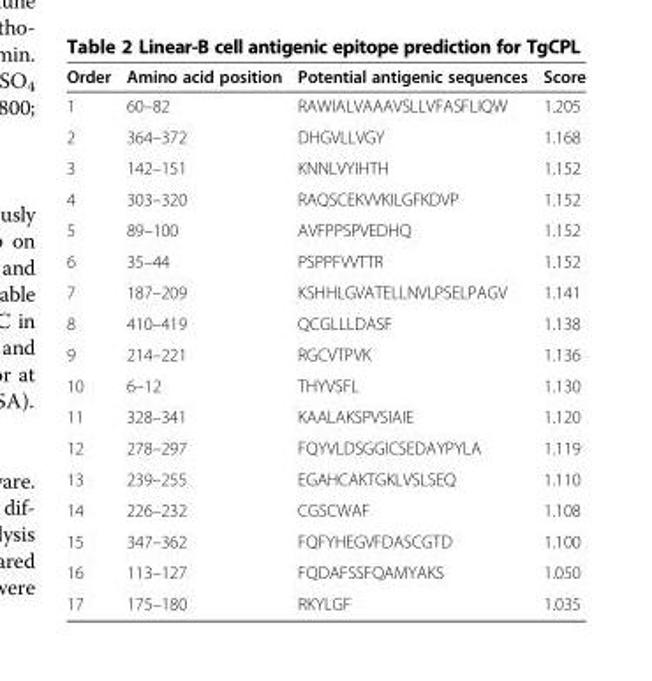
<table><thead><tr><td>Order</td><td>Amino acid position</td><td>Potential antigenic sequences</td><td>Score</td></tr></thead><tbody><tr><td>1</td><td>60–82</td><td>RAWIALVAAAVSLLVFASFLIQW</td><td>1.205</td></tr><tr><td>2</td><td>364–372</td><td>DHGVLLVGY</td><td>1.168</td></tr><tr><td>3</td><td>142–151</td><td>KNNLVYIHTH</td><td>1.152</td></tr><tr><td>4</td><td>303–320</td><td>RAQSCEKVVKILGFKDVP</td><td>1.152</td></tr><tr><td>5</td><td>89–100</td><td>AVFPPSPVEDHQ</td><td>1.152</td></tr><tr><td>6</td><td>35–44</td><td>PSPPFVVTTR</td><td>1.152</td></tr><tr><td>7</td><td>187–209</td><td>KSHHLGVATELLNVLPSELPAGV</td><td>1.141</td></tr><tr><td>8</td><td>410–419</td><td>QCGLLLDASF</td><td>1.138</td></tr><tr><td>9</td><td>214–221</td><td>RGCVTPVK</td><td>1.136</td></tr><tr><td>10</td><td>6–12</td><td>THYVSFL</td><td>1.130</td></tr><tr><td>11</td><td>328–341</td><td>KAALAKSPVSIAIE</td><td>1.120</td></tr><tr><td>12</td><td>278–297</td><td>FQYVLDSGGICSEDAYPYLA</td><td>1.119</td></tr><tr><td>13</td><td>239–255</td><td>EGAHCAKTGKLVSLSEQ</td><td>1.110</td></tr><tr><td>14</td><td>226–232</td><td>CGSCWAF</td><td>1.108</td></tr><tr><td>15</td><td>347–362</td><td>FQFYHEGVFDASCGTD</td><td>1.100</td></tr><tr><td>16</td><td>113–127</td><td>FQDAFSSFQAMYAKS</td><td>1.050</td></tr><tr><td>17</td><td>175–180</td><td>RKYLGF</td><td>1.035</td></tr></tbody></table>